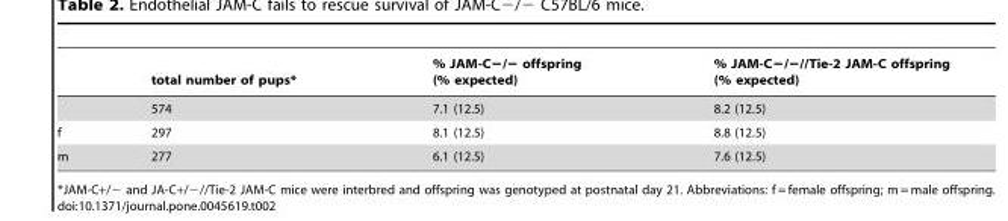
<table><thead><tr><td></td><td>total number of pups*</td><td>% JAM-C−/− offspring (% expected)</td><td>% JAM-C−/−//Tie-2 JAM-C offspring (% expected)</td></tr></thead><tbody><tr><td></td><td>574</td><td>7.1 (12.5)</td><td>8.2 (12.5)</td></tr><tr><td>f</td><td>297</td><td>8.1 (12.5)</td><td>8.8 (12.5)</td></tr><tr><td>m</td><td>277</td><td>6.1 (12.5)</td><td>7.6 (12.5)</td></tr></tbody></table>